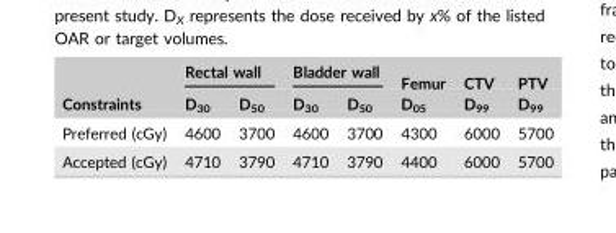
<table><thead><tr><td rowspan="2">Constraints</td><td colspan="2">Rectal wall</td><td colspan="2">Bladder wall</td><td rowspan="2">Femur D<sub>05</sub></td><td rowspan="2">CTV D<sub>99</sub></td><td rowspan="2">PTV D<sub>99</sub></td></tr><tr><td>D<sub>30</sub></td><td>D<sub>50</sub></td><td>D<sub>30</sub></td><td>D<sub>50</sub></td></tr></thead><tbody><tr><td>Preferred (cGy)</td><td>4600</td><td>3700</td><td>4600</td><td>3700</td><td>4300</td><td>6000</td><td>5700</td></tr><tr><td>Accepted (cGy)</td><td>4710</td><td>3790</td><td>4710</td><td>3790</td><td>4400</td><td>6000</td><td>5700</td></tr></tbody></table>